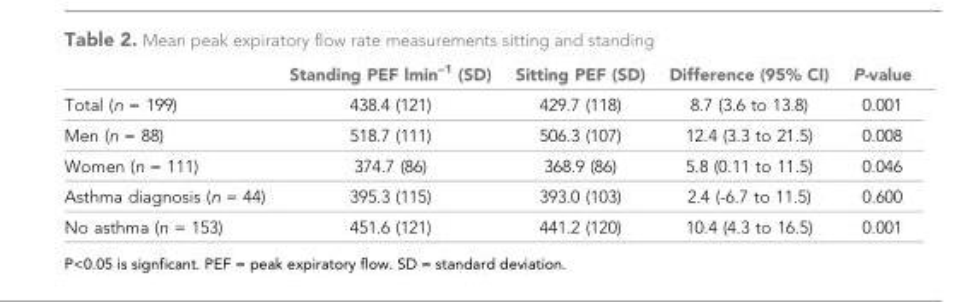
<table><thead><tr><td></td><td>Standing PEF lmin<sup>–1</sup> (SD)</td><td>Sitting PEF (SD)</td><td>Difference (95% CI)</td><td>P-value</td></tr></thead><tbody><tr><td>Total (n = 199)</td><td>438.4 (121)</td><td>429.7 (118)</td><td>8.7 (3.6 to 13.8)</td><td>0.001</td></tr><tr><td>Men (n = 88)</td><td>518.7 (111)</td><td>506.3 (107)</td><td>12.4 (3.3 to 21.5)</td><td>0.008</td></tr><tr><td>Women (n = 111)</td><td>374.7 (86)</td><td>368.9 (86)</td><td>5.8 (0.11 to 11.5)</td><td>0.046</td></tr><tr><td>Asthma diagnosis (n = 44)</td><td>395.3 (115)</td><td>393.0 (103)</td><td>2.4 (-6.7 to 11.5)</td><td>0.600</td></tr><tr><td>No asthma (n = 153)</td><td>451.6 (121)</td><td>441.2 (120)</td><td>10.4 (4.3 to 16.5)</td><td>0.001</td></tr></tbody></table>